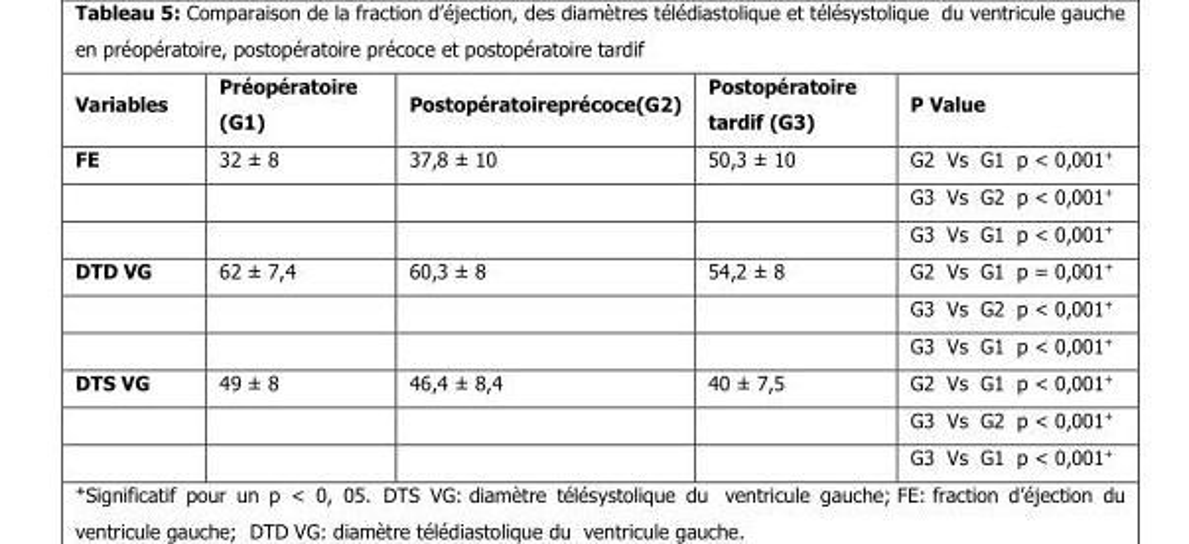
<table><thead><tr><td>Variables</td><td>Préopératoire (G1)</td><td>Postopératoireprécoce(G2)</td><td>Postopératoire tardif (G3)</td><td>P Value</td></tr></thead><tbody><tr><td rowspan="3">FE</td><td>32 ± 8</td><td>37,8 ± 10</td><td>50,3 ± 10</td><td>G2 Vs G1 p &lt; 0,001<sup>+</sup></td></tr><tr><td></td><td></td><td></td><td>G3 Vs G2 p &lt; 0,001<sup>+</sup></td></tr><tr><td></td><td></td><td></td><td>G3 Vs G1 p &lt; 0,001<sup>+</sup></td></tr><tr><td rowspan="3">DTD VG</td><td>62 ± 7,4</td><td>60,3 ± 8</td><td>54,2 ± 8</td><td>G2 Vs G1 p = 0,001<sup>+</sup></td></tr><tr><td></td><td></td><td></td><td>G3 Vs G2 p &lt; 0,001<sup>+</sup></td></tr><tr><td></td><td></td><td></td><td>G3 Vs G1 p &lt; 0,001<sup>+</sup></td></tr><tr><td rowspan="3">DTS VG</td><td>49 ± 8</td><td>46,4 ± 8,4</td><td>40 ± 7,5</td><td>G2 Vs G1 p &lt; 0,001<sup>+</sup></td></tr><tr><td></td><td></td><td></td><td>G3 Vs G2 p &lt; 0,001<sup>+</sup></td></tr><tr><td></td><td></td><td></td><td>G3 Vs G1 p &lt; 0,001<sup>+</sup></td></tr></tbody></table>